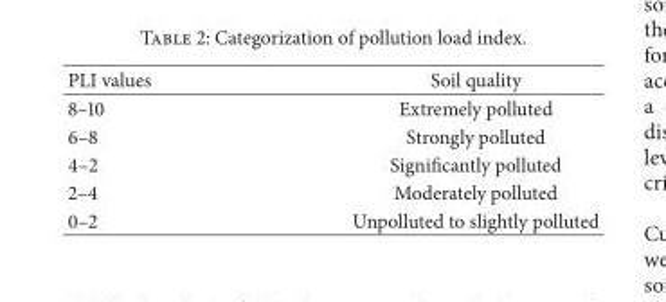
<table><thead><tr><td>PLI values</td><td>Soil quality</td></tr></thead><tbody><tr><td>8–10</td><td>Extremely polluted</td></tr><tr><td>6–8</td><td>Strongly polluted</td></tr><tr><td>4–2</td><td>Significantly polluted</td></tr><tr><td>2–4</td><td>Moderately polluted</td></tr><tr><td>0–2</td><td>Unpolluted to slightly polluted</td></tr></tbody></table>